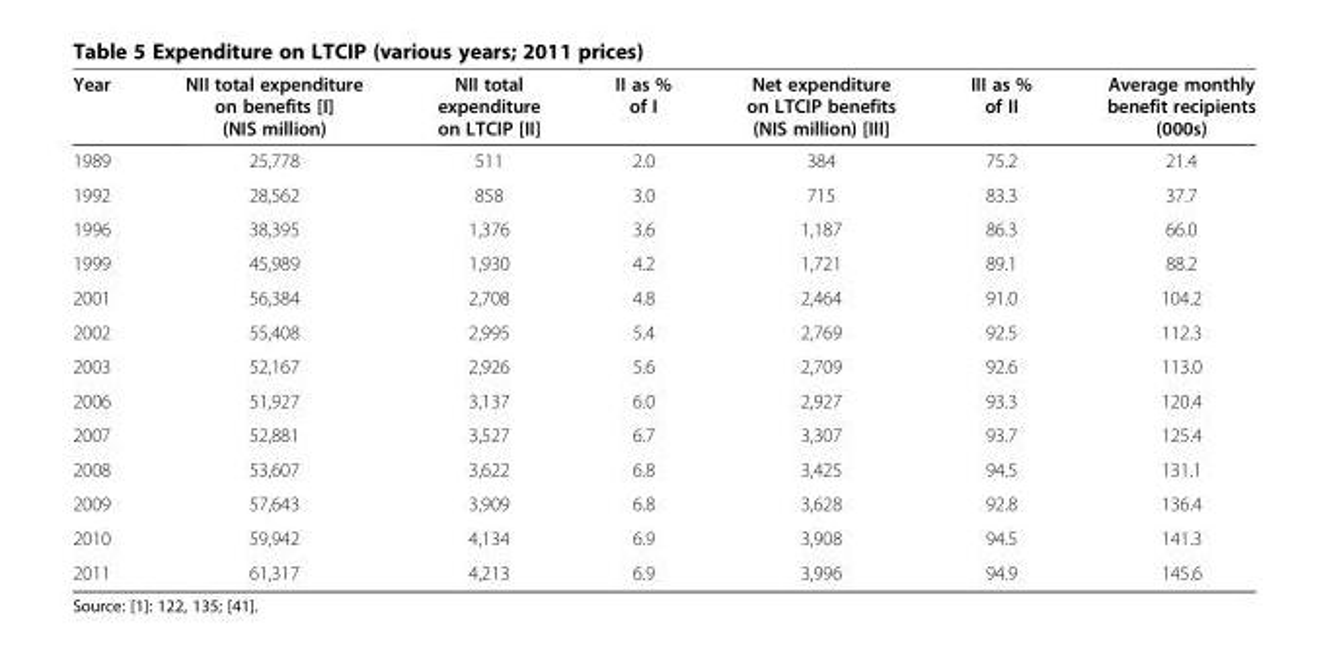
<table><thead><tr><td>Year</td><td>NII total expenditure on benefits [I] (NIS million)</td><td>NII total expenditure on LTCIP [II]</td><td>II as % of I</td><td>Net expenditure on LTCIP benefits (NIS million) [III]</td><td>III as % of II</td><td>Average monthly benefit recipients (000s)</td></tr></thead><tbody><tr><td>1989</td><td>25,778</td><td>511</td><td>2.0</td><td>384</td><td>75.2</td><td>21.4</td></tr><tr><td>1992</td><td>28,562</td><td>858</td><td>3.0</td><td>715</td><td>83.3</td><td>37.7</td></tr><tr><td>1996</td><td>38,395</td><td>1,376</td><td>3.6</td><td>1,187</td><td>86.3</td><td>66.0</td></tr><tr><td>1999</td><td>45,989</td><td>1,930</td><td>4.2</td><td>1,721</td><td>89.1</td><td>88.2</td></tr><tr><td>2001</td><td>56,384</td><td>2,708</td><td>4.8</td><td>2,464</td><td>91.0</td><td>104.2</td></tr><tr><td>2002</td><td>55,408</td><td>2,995</td><td>5.4</td><td>2,769</td><td>92.5</td><td>112.3</td></tr><tr><td>2003</td><td>52,167</td><td>2,926</td><td>5.6</td><td>2,709</td><td>92.6</td><td>113.0</td></tr><tr><td>2006</td><td>51,927</td><td>3,137</td><td>6.0</td><td>2,927</td><td>93.3</td><td>120.4</td></tr><tr><td>2007</td><td>52,881</td><td>3,527</td><td>6.7</td><td>3,307</td><td>93.7</td><td>125.4</td></tr><tr><td>2008</td><td>53,607</td><td>3,622</td><td>6.8</td><td>3,425</td><td>94.5</td><td>131.1</td></tr><tr><td>2009</td><td>57,643</td><td>3,909</td><td>6.8</td><td>3,628</td><td>92.8</td><td>136.4</td></tr><tr><td>2010</td><td>59,942</td><td>4,134</td><td>6.9</td><td>3,908</td><td>94.5</td><td>141.3</td></tr><tr><td>2011</td><td>61,317</td><td>4,213</td><td>6.9</td><td>3,996</td><td>94.9</td><td>145.6</td></tr></tbody></table>